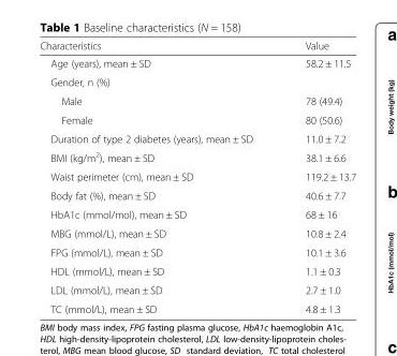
<table><thead><tr><td>Characteristics</td><td>Value</td></tr></thead><tbody><tr><td>Age (years), mean ± SD</td><td>58.2 ± 11.5</td></tr><tr><td colspan="2">Gender, n (%)</td></tr><tr><td>Male</td><td>78 (49.4)</td></tr><tr><td>Female</td><td>80 (50.6)</td></tr><tr><td>Duration of type 2 diabetes (years), mean ± SD</td><td>11.0 ± 7.2</td></tr><tr><td>BMI (kg/m<sup>2</sup>), mean ± SD</td><td>38.1 ± 6.6</td></tr><tr><td>Waist perimeter (cm), mean ± SD</td><td>119.2 ± 13.7</td></tr><tr><td>Body fat (%), mean ± SD</td><td>40.6 ± 7.7</td></tr><tr><td>HbA1c (mmol/mol), mean ± SD</td><td>68 ± 16</td></tr><tr><td>MBG (mmol/L), mean ± SD</td><td>10.8 ± 2.4</td></tr><tr><td>FPG (mmol/L), mean ± SD</td><td>10.1 ± 3.6</td></tr><tr><td>HDL (mmol/L), mean ± SD</td><td>1.1 ± 0.3</td></tr><tr><td>LDL (mmol/L), mean ± SD</td><td>2.7 ± 1.0</td></tr><tr><td>TC (mmol/L), mean ± SD</td><td>4.8 ± 1.3</td></tr></tbody></table>